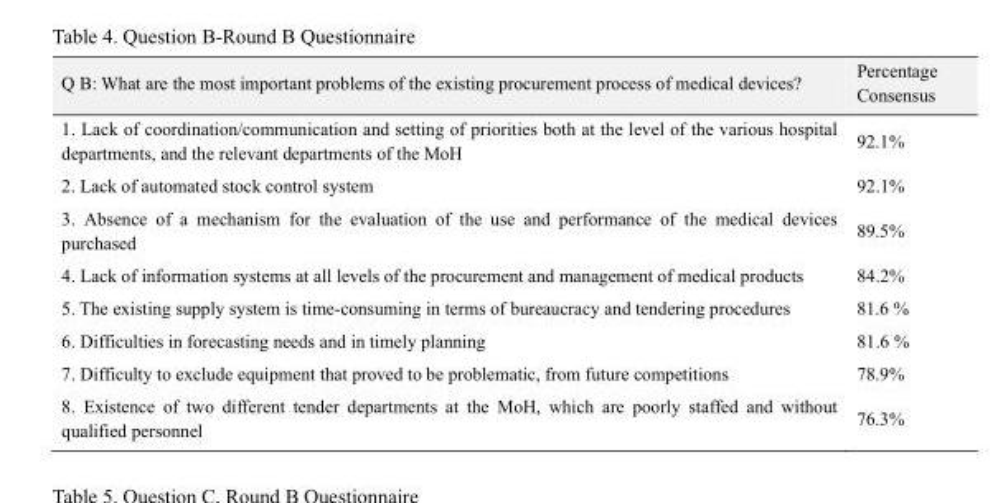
<table><thead><tr><td>Q B: What are the most important problems of the existing procurement process of medical devices?</td><td>Percentage Consensus</td></tr></thead><tbody><tr><td>1. Lack of coordination/communication and setting of priorities both at the level of the various hospital departments, and the relevant departments of the MoH</td><td>92.1%</td></tr><tr><td>2. Lack of automated stock control system</td><td>92.1%</td></tr><tr><td>3. Absence of a mechanism for the evaluation of the use and performance of the medical devices purchased</td><td>89.5%</td></tr><tr><td>4. Lack of information systems at all levels of the procurement and management of medical products</td><td>84.2%</td></tr><tr><td>5. The existing supply system is time-consuming in terms of bureaucracy and tendering procedures</td><td>81.6 %</td></tr><tr><td>6. Difficulties in forecasting needs and in timely planning</td><td>81.6 %</td></tr><tr><td>7. Difficulty to exclude equipment that proved to be problematic, from future competitions</td><td>78.9%</td></tr><tr><td>8. Existence of two different tender departments at the MoH, which are poorly staffed and without qualified personnel</td><td>76.3%</td></tr></tbody></table>